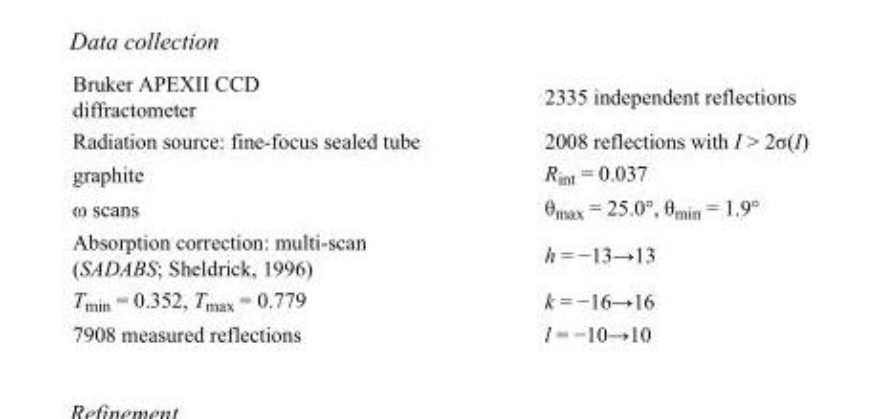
<table><tbody><tr><td>Bruker APEXII CCD diffractometer</td><td>2335 independent reflections</td></tr><tr><td>Radiation source: fine-focus sealed tube</td><td>2008 reflections with I &gt; 2σ(I)</td></tr><tr><td>graphite</td><td>R<sub>int</sub> = 0.037</td></tr><tr><td>ω scans</td><td>θ<sub>max</sub> = 25.0°, θ<sub>min</sub> = 1.9°</td></tr><tr><td>Absorption correction: multi-scan (SADABS; Sheldrick, 1996)</td><td>h = −13→13</td></tr><tr><td>T<sub>min</sub> = 0.352, T<sub>max</sub> = 0.779</td><td>k = −16→16</td></tr><tr><td>7908 measured reflections</td><td>l = −10→10</td></tr></tbody></table>